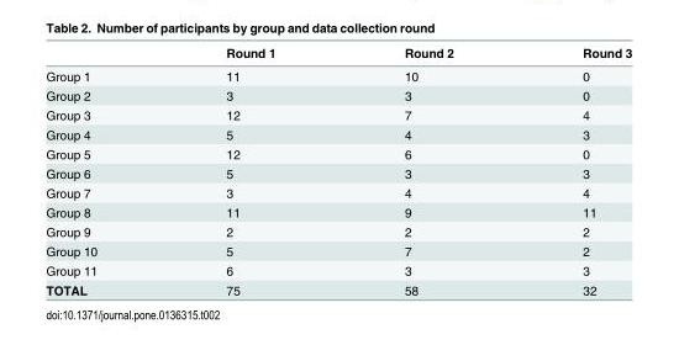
<table><thead><tr><td></td><td>Round 1</td><td>Round 2</td><td>Round 3</td></tr></thead><tbody><tr><td>Group 1</td><td>11</td><td>10</td><td>0</td></tr><tr><td>Group 2</td><td>3</td><td>3</td><td>0</td></tr><tr><td>Group 3</td><td>12</td><td>7</td><td>4</td></tr><tr><td>Group 4</td><td>5</td><td>4</td><td>3</td></tr><tr><td>Group 5</td><td>12</td><td>6</td><td>0</td></tr><tr><td>Group 6</td><td>5</td><td>3</td><td>3</td></tr><tr><td>Group 7</td><td>3</td><td>4</td><td>4</td></tr><tr><td>Group 8</td><td>11</td><td>9</td><td>11</td></tr><tr><td>Group 9</td><td>2</td><td>2</td><td>2</td></tr><tr><td>Group 10</td><td>5</td><td>7</td><td>2</td></tr><tr><td>Group 11</td><td>6</td><td>3</td><td>3</td></tr><tr><td>TOTAL</td><td>75</td><td>58</td><td>32</td></tr></tbody></table>